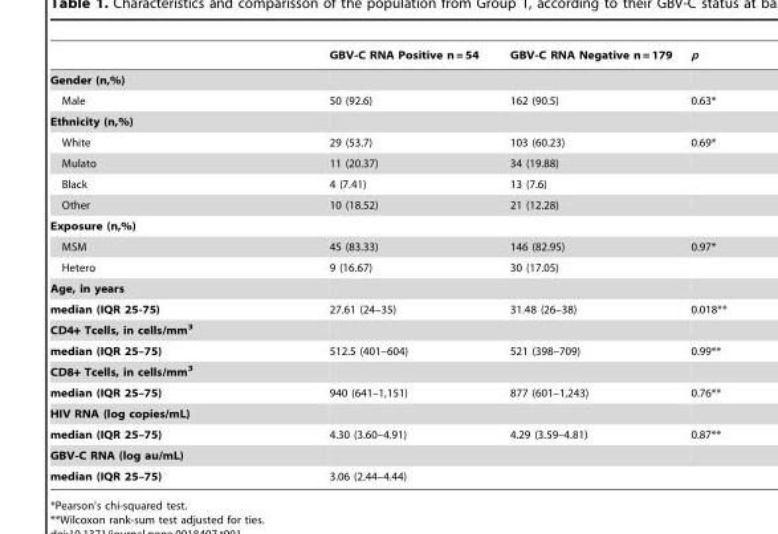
<table><thead><tr><td></td><td>GBV-C RNA Positive n = 54</td><td>GBV-C RNA Negative n = 179</td><td>p</td></tr></thead><tbody><tr><td colspan="4">Gender (n,%)</td></tr><tr><td>Male</td><td>50 (92.6)</td><td>162 (90.5)</td><td>0.63*</td></tr><tr><td colspan="4">Ethnicity (n,%)</td></tr><tr><td>White</td><td>29 (53.7)</td><td>103 (60.23)</td><td>0.69*</td></tr><tr><td>Mulato</td><td>11 (20.37)</td><td>34 (19.88)</td><td></td></tr><tr><td>Black</td><td>4 (7.41)</td><td>13 (7.6)</td><td></td></tr><tr><td>Other</td><td>10 (18.52)</td><td>21 (12.28)</td><td></td></tr><tr><td colspan="4">Exposure (n,%)</td></tr><tr><td>MSM</td><td>45 (83.33)</td><td>146 (82.95)</td><td>0.97*</td></tr><tr><td>Hetero</td><td>9 (16.67)</td><td>30 (17.05)</td><td></td></tr><tr><td colspan="4">Age, in years</td></tr><tr><td>median (IQR 25-75)</td><td>27.61 (24–35)</td><td>31.48 (26–38)</td><td>0.018**</td></tr><tr><td colspan="4">CD4+ Tcells, in cells/mm<sup>3</sup></td></tr><tr><td>median (IQR 25–75)</td><td>512.5 (401–604)</td><td>521 (398–709)</td><td>0.99**</td></tr><tr><td colspan="4">CD8+ Tcells, in cells/mm<sup>3</sup></td></tr><tr><td>median (IQR 25–75)</td><td>940 (641–1,151)</td><td>877 (601–1,243)</td><td>0.76**</td></tr><tr><td colspan="4">HIV RNA (log copies/mL)</td></tr><tr><td>median (IQR 25–75)</td><td>4.30 (3.60–4.91)</td><td>4.29 (3.59–4.81)</td><td>0.87**</td></tr><tr><td colspan="4">GBV-C RNA (log au/mL)</td></tr><tr><td>median (IQR 25–75)</td><td>3.06 (2.44–4.44)</td><td></td><td></td></tr></tbody></table>